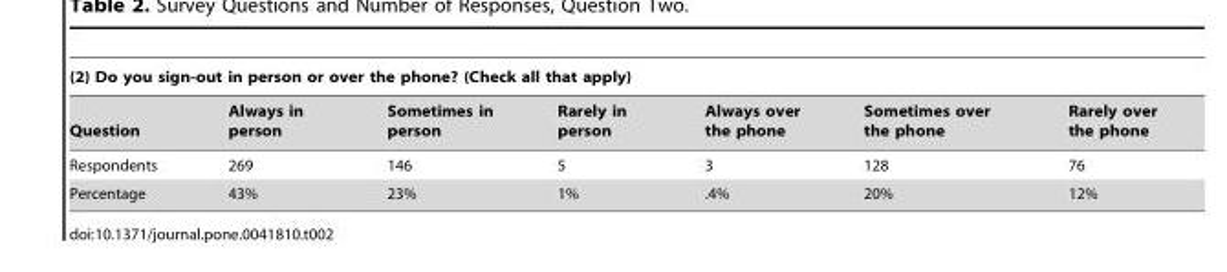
<table><thead><tr><td colspan="7">(2) Do you sign-out in person or over the phone? (Check all that apply)</td></tr><tr><td>Question</td><td>Always in person</td><td>Sometimes in person</td><td>Rarely in person</td><td>Always over the phone</td><td>Sometimes over the phone</td><td>Rarely over the phone</td></tr></thead><tbody><tr><td>Respondents</td><td>269</td><td>146</td><td>5</td><td>3</td><td>128</td><td>76</td></tr><tr><td>Percentage</td><td>43%</td><td>23%</td><td>1%</td><td>.4%</td><td>20%</td><td>12%</td></tr></tbody></table>